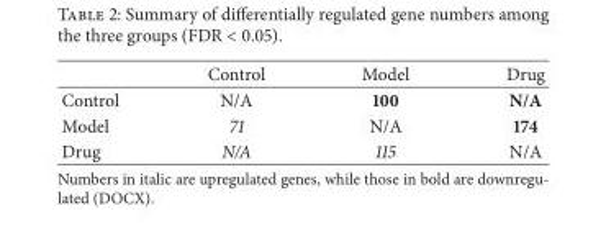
<table><thead><tr><td></td><td>Control</td><td>Model</td><td>Drug</td></tr></thead><tbody><tr><td>Control</td><td>N/A</td><td>100</td><td>N/A</td></tr><tr><td>Model</td><td>71</td><td>N/A</td><td>174</td></tr><tr><td>Drug</td><td>N/A</td><td>115</td><td>N/A</td></tr></tbody></table>